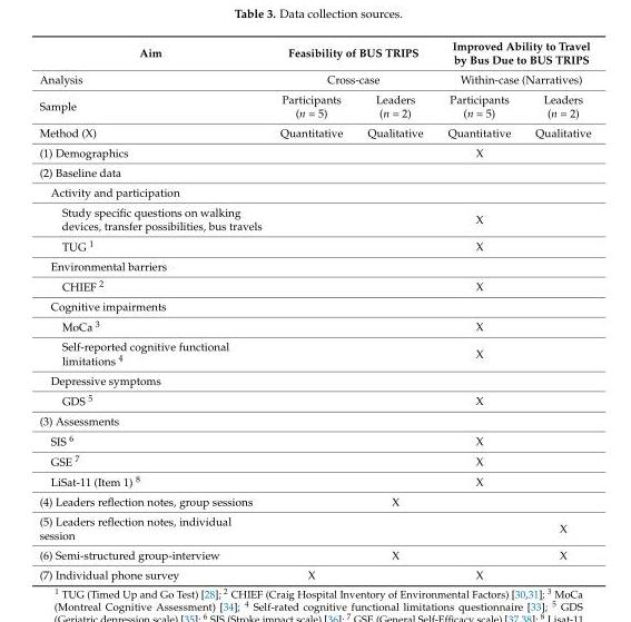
<table><thead><tr><td rowspan="3">Aim Analysis Sample</td><td rowspan="2" colspan="2">Feasibility of BUS TRIPS Cross-case</td><td rowspan="2" colspan="2">Improved Ability to Travel by Bus Due to BUS TRIPS Within-case (Narratives)</td></tr><tr></tr><tr><td>Participants (n = 5)</td><td>Leaders (n = 2)</td><td>Participants (n = 5)</td><td>Leaders (n = 2)</td></tr></thead><tbody><tr><td>Method (X)</td><td>Quantitative</td><td>Qualitative</td><td>Quantitative</td><td>Qualitative</td></tr><tr><td>(1) Demographics</td><td></td><td></td><td>X</td><td></td></tr><tr><td colspan="5">(2) Baseline data</td></tr><tr><td colspan="5">Activity and participation</td></tr><tr><td>Study specific questions on walking devices, transfer possibilities, bus travels</td><td></td><td></td><td>X</td><td></td></tr><tr><td>TUG <sup>1</sup></td><td></td><td></td><td>X</td><td></td></tr><tr><td colspan="5">Environmental barriers</td></tr><tr><td>CHIEF <sup>2</sup></td><td></td><td></td><td>X</td><td></td></tr><tr><td colspan="5">Cognitive impairments</td></tr><tr><td>MoCa <sup>3</sup></td><td></td><td></td><td>X</td><td></td></tr><tr><td>Self-reported cognitive functional limitations <sup>4</sup></td><td></td><td></td><td>X</td><td></td></tr><tr><td colspan="5">Depressive symptoms</td></tr><tr><td>GDS <sup>5</sup></td><td></td><td></td><td>X</td><td></td></tr><tr><td colspan="5">(3) Assessments</td></tr><tr><td>SIS <sup>6</sup></td><td></td><td></td><td>X</td><td></td></tr><tr><td>GSE <sup>7</sup></td><td></td><td></td><td>X</td><td></td></tr><tr><td>LiSat-11 (Item 1) <sup>8</sup></td><td></td><td></td><td>X</td><td></td></tr><tr><td>(4) Leaders reflection notes, group sessions</td><td></td><td>X</td><td></td><td></td></tr><tr><td>(5) Leaders reflection notes, individual session</td><td></td><td></td><td></td><td>X</td></tr><tr><td>(6) Semi-structured group-interview</td><td></td><td>X</td><td></td><td>X</td></tr><tr><td>(7) Individual phone survey</td><td>X</td><td></td><td>X</td><td></td></tr></tbody></table>